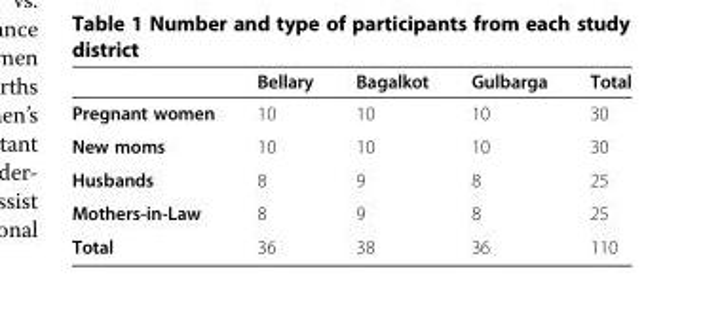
<table><thead><tr><td></td><td>Bellary</td><td>Bagalkot</td><td>Gulbarga</td><td>Total</td></tr></thead><tbody><tr><td>Pregnant women</td><td>10</td><td>10</td><td>10</td><td>30</td></tr><tr><td>New moms</td><td>10</td><td>10</td><td>10</td><td>30</td></tr><tr><td>Husbands</td><td>8</td><td>9</td><td>8</td><td>25</td></tr><tr><td>Mothers-in-Law</td><td>8</td><td>9</td><td>8</td><td>25</td></tr><tr><td>Total</td><td>36</td><td>38</td><td>36</td><td>110</td></tr></tbody></table>